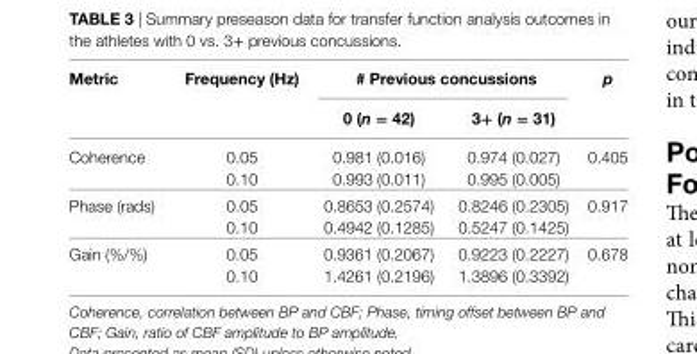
<table><thead><tr><td rowspan="2">Metric</td><td rowspan="2">Frequency (hz)</td><td colspan="2"># Previous concussions</td><td rowspan="2">p</td></tr><tr><td>0 (n = 42)</td><td>3+ (n = 31)</td></tr></thead><tbody><tr><td rowspan="2">Coherence</td><td>0.05</td><td>0.981 (0.016)</td><td>0.974 (0.027)</td><td rowspan="2">0.405</td></tr><tr><td>0.10</td><td>0.993 (0.011)</td><td>0.995 (0.005)</td></tr><tr><td rowspan="2">Phase (rads)</td><td>0.05</td><td>0.8653 (0.2574)</td><td>0.8246 (0.2305)</td><td rowspan="2">0.917</td></tr><tr><td>0.10</td><td>0.4942 (0.1285)</td><td>0.5247 (0.1425)</td></tr><tr><td rowspan="2">Gain (%/%)</td><td>0.05</td><td>0.9361 (0.2067)</td><td>0.9223 (0.2227)</td><td rowspan="2">0.678</td></tr><tr><td>0.10</td><td>1.4261 (0.2196)</td><td>1.3896 (0.3392)</td></tr></tbody></table>